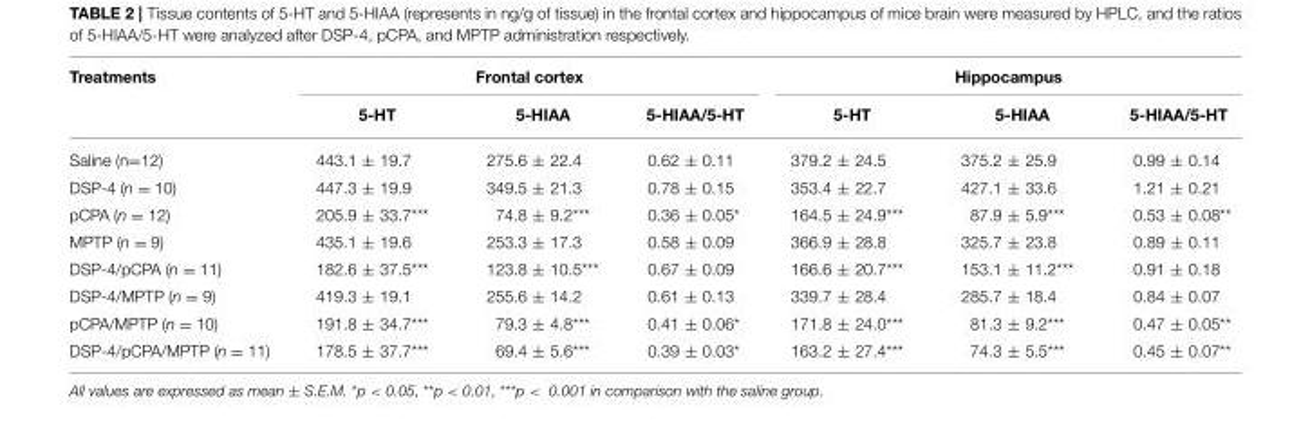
<table><thead><tr><td rowspan="2">Treatments</td><td colspan="3">Frontal cortex</td><td colspan="3">Hippocampus</td></tr><tr><td>5-HT</td><td>5-HIAA</td><td>5-HIAA/5-HT</td><td>5-HT</td><td>5-HIAA</td><td>5-HIAA/5-HT</td></tr></thead><tbody><tr><td>Saline (n=12)</td><td>443.1 ± 19.7</td><td>275.6 ± 22.4</td><td>0.62 ± 0.11</td><td>379.2 ± 24.5</td><td>375.2 ± 25.9</td><td>0.99 ± 0.14</td></tr><tr><td>DSP-4 (n = 10)</td><td>447.3 ± 19.9</td><td>349.5 ± 21.3</td><td>0.78 ± 0.15</td><td>353.4 ± 22.7</td><td>427.1 ± 33.6</td><td>1.21 ± 0.21</td></tr><tr><td>pCPA (n = 12)</td><td>205.9 ± 33.7***</td><td>74.8 ± 9.2***</td><td>0.36 ± 0.05*</td><td>164.5 ± 24.9***</td><td>87.9 ± 5.9***</td><td>0.53 ± 0.08**</td></tr><tr><td>MPTP (n = 9)</td><td>435.1 ± 19.6</td><td>253.3 ± 17.3</td><td>0.58 ± 0.09</td><td>366.9 ± 28.8</td><td>325.7 ± 23.8</td><td>0.89 ± 0.11</td></tr><tr><td>DSP-4/pCPA (n = 11)</td><td>182.6 ± 37.5***</td><td>123.8 ± 10.5***</td><td>0.67 ± 0.09</td><td>166.6 ± 20.7***</td><td>153.1 ± 11.2***</td><td>0.91 ± 0.18</td></tr><tr><td>DSP-4/MPTP (n = 9)</td><td>419.3 ± 19.1</td><td>255.6 ± 14.2</td><td>0.61 ± 0.13</td><td>339.7 ± 28.4</td><td>285.7 ± 18.4</td><td>0.84 ± 0.07</td></tr><tr><td>pCPA/MPTP (n = 10)</td><td>191.8 ± 34.7***</td><td>79.3 ± 4.8***</td><td>0.41 ± 0.06*</td><td>171.8 ± 24.0***</td><td>81.3 ± 9.2***</td><td>0.47 ± 0.05**</td></tr><tr><td>DSP-4/pCPA/MPTP (n = 11)</td><td>178.5 ± 37.7***</td><td>69.4 ± 5.6***</td><td>0.39 ± 0.03*</td><td>163.2 ± 27.4***</td><td>74.3 ± 5.5***</td><td>0.45 ± 0.07**</td></tr></tbody></table>